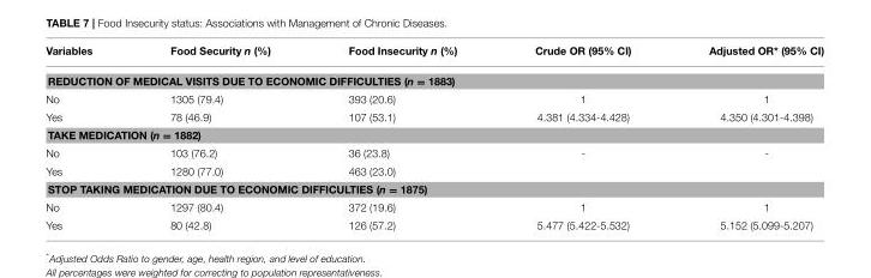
<table><thead><tr><td>Variables</td><td>Food Security n (%)</td><td>Food Insecurity n (%)</td><td>Crude OR (95% CI)</td><td>Adjusted OR* (95% CI)</td></tr></thead><tbody><tr><td colspan="5">REDUCTION OF MEDICAL VISITS DUE TO ECONOMIC DIFFICULTIES (n = 1883)</td></tr><tr><td>No</td><td>1305 (79.4)</td><td>393 (20.6)</td><td>1</td><td>1</td></tr><tr><td>Yes</td><td>78 (46.9)</td><td>107 (53.1)</td><td>4.381 (4.334-4.428)</td><td>4.350 (4.301-4.398)</td></tr><tr><td colspan="5">TAKE MEDICATION (n = 1882)</td></tr><tr><td>No</td><td>103 (76.2)</td><td>36 (23.8)</td><td>-</td><td>-</td></tr><tr><td>Yes</td><td>1280 (77.0)</td><td>463 (23.0)</td><td></td><td></td></tr><tr><td colspan="5">STOP TAKING MEDICATION DUE TO ECONOMIC DIFFICULTIES (n = 1875)</td></tr><tr><td>No</td><td>1297 (80.4)</td><td>372 (19.6)</td><td>1</td><td>1</td></tr><tr><td>Yes</td><td>80 (42.8)</td><td>126 (57.2)</td><td>5.477 (5.422-5.532)</td><td>5.152 (5.099-5.207)</td></tr></tbody></table>